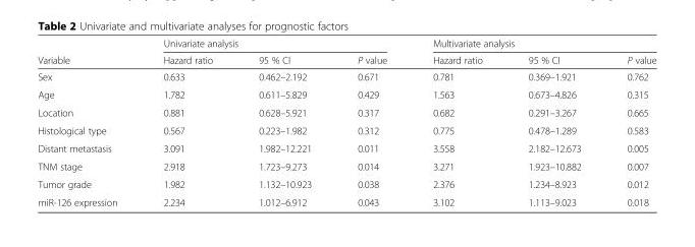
<table><thead><tr><td rowspan="2">Variable</td><td colspan="3">Univariate analysis</td><td colspan="3">Multivariate analysis</td></tr><tr><td>Hazard ratio</td><td>95 % CI</td><td>P value</td><td>Hazard ratio</td><td>95 % CI</td><td>P value</td></tr></thead><tbody><tr><td>Sex</td><td>0.633</td><td>0.462–2.192</td><td>0.671</td><td>0.781</td><td>0.369–1.921</td><td>0.762</td></tr><tr><td>Age</td><td>1.782</td><td>0.611–5.829</td><td>0.429</td><td>1.563</td><td>0.673–4.826</td><td>0.315</td></tr><tr><td>Location</td><td>0.881</td><td>0.628–5.921</td><td>0.317</td><td>0.682</td><td>0.291–3.267</td><td>0.665</td></tr><tr><td>Histological type</td><td>0.567</td><td>0.223–1.982</td><td>0.312</td><td>0.775</td><td>0.478–1.289</td><td>0.583</td></tr><tr><td>Distant metastasis</td><td>3.091</td><td>1.982–12.221</td><td>0.011</td><td>3.558</td><td>2.182–12.673</td><td>0.005</td></tr><tr><td>TNM stage</td><td>2.918</td><td>1.723–9.273</td><td>0.014</td><td>3.271</td><td>1.923–10.882</td><td>0.007</td></tr><tr><td>Tumor grade</td><td>1.982</td><td>1.132–10.923</td><td>0.038</td><td>2.376</td><td>1.234–8.923</td><td>0.012</td></tr><tr><td>miR-126 expression</td><td>2.234</td><td>1.012–6.912</td><td>0.043</td><td>3.102</td><td>1.113–9.023</td><td>0.018</td></tr></tbody></table>